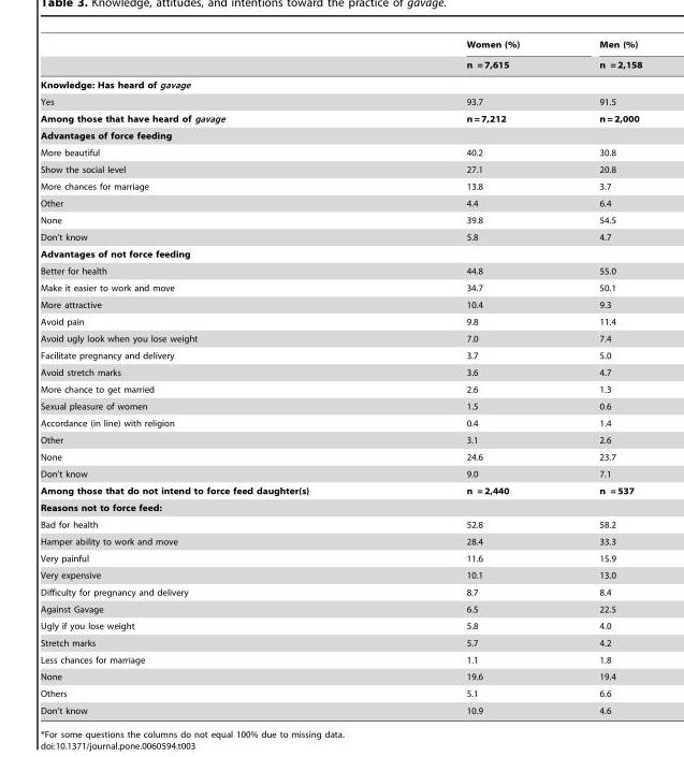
<table><thead><tr><td rowspan="2"></td><td rowspan="2">Women (%) n = 7,615</td><td rowspan="2">Men (%) n = 2,158</td></tr><tr></tr></thead><tbody><tr><td colspan="3">Knowledge: Has heard of gavage</td></tr><tr><td>Yes</td><td>93.7</td><td>91.5</td></tr><tr><td>Among those that have heard of gavage</td><td>n = 7,212</td><td>n = 2,000</td></tr><tr><td colspan="3">Advantages of force feeding</td></tr><tr><td>More beautiful</td><td>40.2</td><td>30.8</td></tr><tr><td>Show the social level</td><td>27.1</td><td>20.8</td></tr><tr><td>More chances for marriage</td><td>13.8</td><td>3.7</td></tr><tr><td>Other</td><td>4.4</td><td>6.4</td></tr><tr><td>None</td><td>39.8</td><td>54.5</td></tr><tr><td>Don’t know</td><td>5.8</td><td>4.7</td></tr><tr><td colspan="3">Advantages of not force feeding</td></tr><tr><td>Better for health</td><td>44.8</td><td>55.0</td></tr><tr><td>Make it easier to work and move</td><td>34.7</td><td>50.1</td></tr><tr><td>More attractive</td><td>10.4</td><td>9.3</td></tr><tr><td>Avoid pain</td><td>9.8</td><td>11.4</td></tr><tr><td>Avoid ugly look when you lose weight</td><td>7.0</td><td>7.4</td></tr><tr><td>Facilitate pregnancy and delivery</td><td>3.7</td><td>5.0</td></tr><tr><td>Avoid stretch marks</td><td>3.6</td><td>4.7</td></tr><tr><td>More chance to get married</td><td>2.6</td><td>1.3</td></tr><tr><td>Sexual pleasure of women</td><td>1.5</td><td>0.6</td></tr><tr><td>Accordance (in line) with religion</td><td>0.4</td><td>1.4</td></tr><tr><td>Other</td><td>3.1</td><td>2.6</td></tr><tr><td>None</td><td>24.6</td><td>23.7</td></tr><tr><td>Don’t know</td><td>9.0</td><td>7.1</td></tr><tr><td>Among those that do not intend to force feed daughter(s)</td><td>n = 2,440</td><td>n = 537</td></tr><tr><td colspan="3">Reasons not to force feed:</td></tr><tr><td>Bad for health</td><td>52.8</td><td>58.2</td></tr><tr><td>Hamper ability to work and move</td><td>28.4</td><td>33.3</td></tr><tr><td>Very painful</td><td>11.6</td><td>15.9</td></tr><tr><td>Very expensive</td><td>10.1</td><td>13.0</td></tr><tr><td>Difficulty for pregnancy and delivery</td><td>8.7</td><td>8.4</td></tr><tr><td>Against Gavage</td><td>6.5</td><td>22.5</td></tr><tr><td>Ugly if you lose weight</td><td>5.8</td><td>4.0</td></tr><tr><td>Stretch marks</td><td>5.7</td><td>4.2</td></tr><tr><td>Less chances for marriage</td><td>1.1</td><td>1.8</td></tr><tr><td>None</td><td>19.6</td><td>19.4</td></tr><tr><td>Others</td><td>5.1</td><td>6.6</td></tr><tr><td>Don’t know</td><td>10.9</td><td>4.6</td></tr></tbody></table>